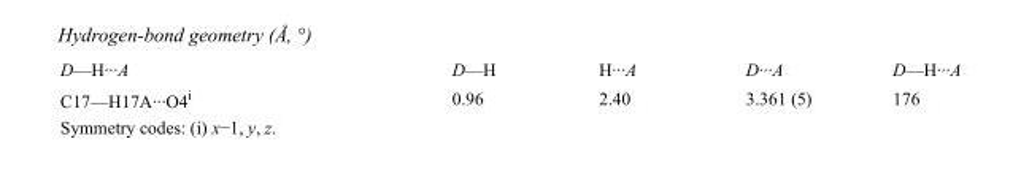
<table><tbody><tr><td>D—H···A</td><td>D—H</td><td>H···A</td><td>D···A</td><td>D—H···A</td></tr><tr><td>C17—H17A···O4<sup>i</sup></td><td>0.96</td><td>2.40</td><td>3.361 (5)</td><td>176</td></tr></tbody></table>